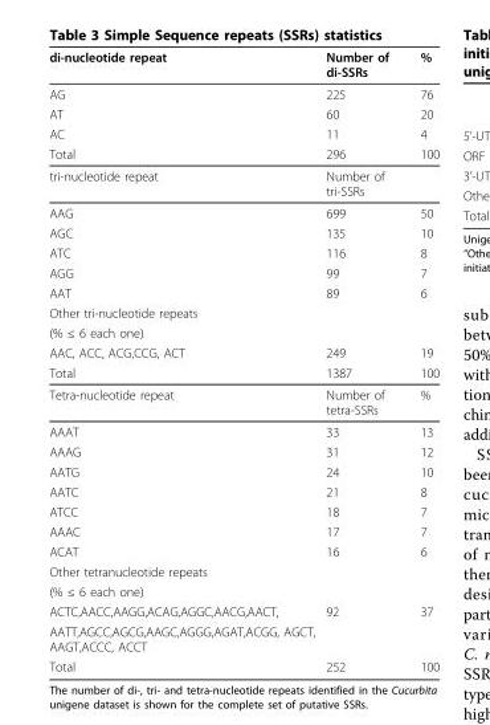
<table><thead><tr><td>di-nucleotide repeat</td><td>Number of di-SSRs</td><td>%</td></tr></thead><tbody><tr><td>AG</td><td>225</td><td>76</td></tr><tr><td>AT</td><td>60</td><td>20</td></tr><tr><td>AC</td><td>11</td><td>4</td></tr><tr><td>Total</td><td>296</td><td>100</td></tr><tr><td>tri-nucleotide repeat</td><td>Number of tri-SSRs</td><td></td></tr><tr><td>AAG</td><td>699</td><td>50</td></tr><tr><td>AGC</td><td>135</td><td>10</td></tr><tr><td>ATC</td><td>116</td><td>8</td></tr><tr><td>AGG</td><td>99</td><td>7</td></tr><tr><td>AAT</td><td>89</td><td>6</td></tr><tr><td colspan="3">Other tri-nucleotide repeats</td></tr><tr><td colspan="3">(% ≤ 6 each one)</td></tr><tr><td>AAC, ACC, ACG,CCG, ACT</td><td>249</td><td>19</td></tr><tr><td>Total</td><td>1387</td><td>100</td></tr><tr><td>Tetra-nucleotide repeat</td><td>Number of tetra-SSRs</td><td>%</td></tr><tr><td>AAAT</td><td>33</td><td>13</td></tr><tr><td>AAAG</td><td>31</td><td>12</td></tr><tr><td>AATG</td><td>24</td><td>10</td></tr><tr><td>AATC</td><td>21</td><td>8</td></tr><tr><td>ATCC</td><td>18</td><td>7</td></tr><tr><td>AAAC</td><td>17</td><td>7</td></tr><tr><td>ACAT</td><td>16</td><td>6</td></tr><tr><td colspan="3">Other tetranucleotide repeats</td></tr><tr><td colspan="3">(% ≤ 6 each one)</td></tr><tr><td>ACTC,AACC,AAGG,ACAG,AGGC,AACG,AACT,</td><td>92</td><td>37</td></tr><tr><td colspan="3">AATT,AGCC,AGCG,AAGC,AGGG,AGAT,ACGG, AGCT, AAGT,ACCC, ACCT</td></tr><tr><td>Total</td><td>252</td><td>100</td></tr></tbody></table>